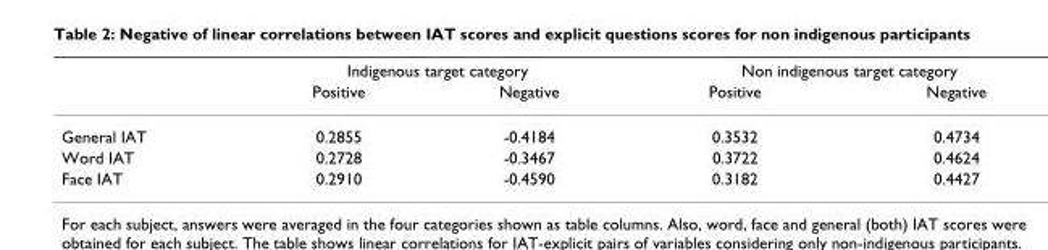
<table><thead><tr><td rowspan="2"></td><td colspan="2">Indigenous target category</td><td colspan="2">Non indigenous target category</td></tr><tr><td>Positive</td><td>Negative</td><td>Positive</td><td>Negative</td></tr></thead><tbody><tr><td>General IAT</td><td>0.2855</td><td>-0.4184</td><td>0.3532</td><td>0.4734</td></tr><tr><td>Word IAT</td><td>0.2728</td><td>-0.3467</td><td>0.3722</td><td>0.4624</td></tr><tr><td>Face IAT</td><td>0.2910</td><td>-0.4590</td><td>0.3182</td><td>0.4427</td></tr></tbody></table>